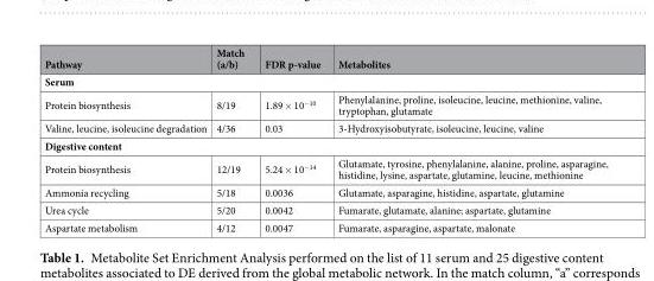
<table><thead><tr><td>Pathway</td><td>Match (a/b)</td><td>FDR p-value</td><td>Metabolites</td></tr></thead><tbody><tr><td colspan="4">Serum</td></tr><tr><td>Protein biosynthesis</td><td>8/19</td><td>1.89 × 10<sup>−10</sup></td><td>Phenylalanine, proline, isoleucine, leucine, methionine, valine, tryptophan, glutamate</td></tr><tr><td>Valine, leucine, isoleucine degradation</td><td>4/36</td><td>0.03</td><td>3-Hydroxyisobutyrate, isoleucine, leucine, valine</td></tr><tr><td colspan="4">Digestive content</td></tr><tr><td>Protein biosynthesis</td><td>12/19</td><td>5.24 × 10<sup>−14</sup></td><td>Glutamate, tyrosine, phenylalanine, alanine, proline, asparagine, histidine, lysine, aspartate, glutamine, leucine, methionine</td></tr><tr><td>Ammonia recycling</td><td>5/18</td><td>0.0036</td><td>Glutamate, asparagine, histidine, aspartate, glutamine</td></tr><tr><td>Urea cycle</td><td>5/20</td><td>0.0042</td><td>Fumarate, glutamate, alanine; aspartate, glutamine</td></tr><tr><td>Aspartate metabolism</td><td>4/12</td><td>0.0047</td><td>Fumarate, asparagine, aspartate, malonate</td></tr></tbody></table>